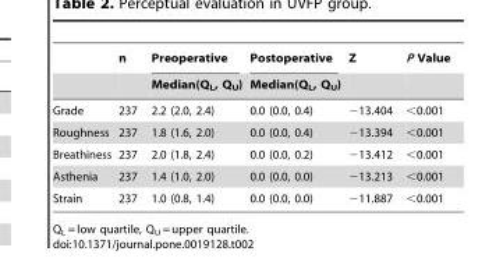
<table><thead><tr><td rowspan="2"></td><td rowspan="2">n</td><td rowspan="2">Preoperative Median(Q<sub>L</sub>, Q<sub>U</sub>)</td><td rowspan="2">Postoperative Median(Q<sub>L</sub>, Q<sub>U</sub>)</td><td rowspan="2">Z</td><td rowspan="2">P Value</td></tr><tr></tr></thead><tbody><tr><td>Grade</td><td>237</td><td>2.2 (2.0, 2.4)</td><td>0.0 (0.0, 0.4)</td><td>−13.404</td><td>&lt;0.001</td></tr><tr><td>Roughness</td><td>237</td><td>1.8 (1.6, 2.0)</td><td>0.0 (0.0, 0.4)</td><td>−13.394</td><td>&lt;0.001</td></tr><tr><td>Breathiness</td><td>237</td><td>2.0 (1.8, 2.4)</td><td>0.0 (0.0, 0.2)</td><td>−13.412</td><td>&lt;0.001</td></tr><tr><td>Asthenia</td><td>237</td><td>1.4 (1.0, 2.0)</td><td>0.0 (0.0, 0.0)</td><td>−13.213</td><td>&lt;0.001</td></tr><tr><td>Strain</td><td>237</td><td>1.0 (0.8, 1.4)</td><td>0.0 (0.0, 0.0)</td><td>−11.887</td><td>&lt;0.001</td></tr></tbody></table>